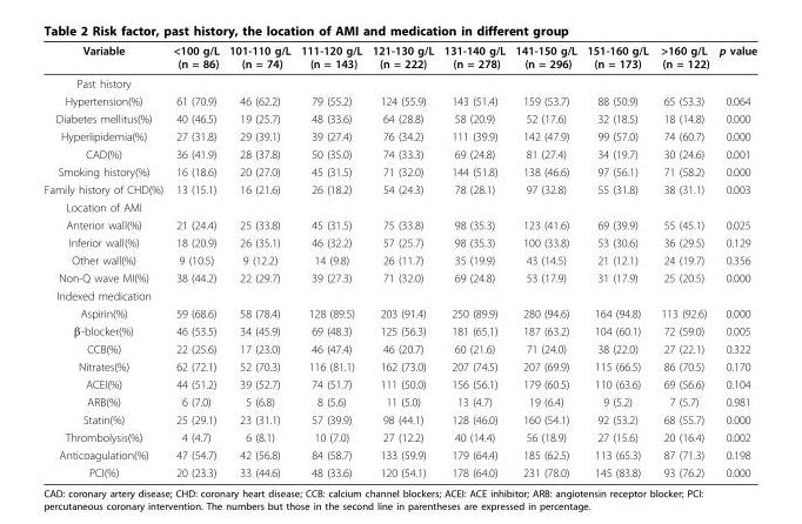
<table><thead><tr><td>Variable</td><td>&lt;100 g/L (n = 86)</td><td>101-110 g/L (n = 74)</td><td>111-120 g/L (n = 143)</td><td>121-130 g/L (n = 222)</td><td>131-140 g/L (n = 278)</td><td>141-150 g/L (n = 296)</td><td>151-160 g/L (n = 173)</td><td>&gt;160 g/L (n = 122)</td><td>p value</td></tr></thead><tbody><tr><td colspan="10">Past history</td></tr><tr><td>Hypertension(%)</td><td>61 (70.9)</td><td>46 (62.2)</td><td>79 (55.2)</td><td>124 (55.9)</td><td>143 (51.4)</td><td>159 (53.7)</td><td>88 (50.9)</td><td>65 (53.3)</td><td>0.064</td></tr><tr><td>Diabetes mellitus(%)</td><td>40 (46.5)</td><td>19 (25.7)</td><td>48 (33.6)</td><td>64 (28.8)</td><td>58 (20.9)</td><td>52 (17.6)</td><td>32 (18.5)</td><td>18 (14.8)</td><td>0.000</td></tr><tr><td>Hyperlipidemia(%)</td><td>27 (31.8)</td><td>29 (39.1)</td><td>39 (27.4)</td><td>76 (34.2)</td><td>111 (39.9)</td><td>142 (47.9)</td><td>99 (57.0)</td><td>74 (60.7)</td><td>0.000</td></tr><tr><td>CAD(%)</td><td>36 (41.9)</td><td>28 (37.8)</td><td>50 (35.0)</td><td>74 (33.3)</td><td>69 (24.8)</td><td>81 (27.4)</td><td>34 (19.7)</td><td>30 (24.6)</td><td>0.001</td></tr><tr><td>Smoking history(%)</td><td>16 (18.6)</td><td>20 (27.0)</td><td>45 (31.5)</td><td>71 (32.0)</td><td>144 (51.8)</td><td>138 (46.6)</td><td>97 (56.1)</td><td>71 (58.2)</td><td>0.000</td></tr><tr><td>Family history of CHD(%)</td><td>13 (15.1)</td><td>16 (21.6)</td><td>26 (18.2)</td><td>54 (24.3)</td><td>78 (28.1)</td><td>97 (32.8)</td><td>55 (31.8)</td><td>38 (31.1)</td><td>0.003</td></tr><tr><td colspan="10">Location of AMI</td></tr><tr><td>Anterior wall(%)</td><td>21 (24.4)</td><td>25 (33.8)</td><td>45 (31.5)</td><td>75 (33.8)</td><td>98 (35.3)</td><td>123 (41.6)</td><td>69 (39.9)</td><td>55 (45.1)</td><td>0.025</td></tr><tr><td>Inferior wall(%)</td><td>18 (20.9)</td><td>26 (35.1)</td><td>46 (32.2)</td><td>57 (25.7)</td><td>98 (35.3)</td><td>100 (33.8)</td><td>53 (30.6)</td><td>36 (29.5)</td><td>0.129</td></tr><tr><td>Other wall(%)</td><td>9 (10.5)</td><td>9 (12.2)</td><td>14 (9.8)</td><td>26 (11.7)</td><td>35 (19.9)</td><td>43 (14.5)</td><td>21 (12.1)</td><td>24 (19.7)</td><td>0.356</td></tr><tr><td>Non-Q wave MI(%)</td><td>38 (44.2)</td><td>22 (29.7)</td><td>39 (27.3)</td><td>71 (32.0)</td><td>69 (24.8)</td><td>53 (17.9)</td><td>31 (17.9)</td><td>25 (20.5)</td><td>0.000</td></tr><tr><td colspan="10">Indexed medication</td></tr><tr><td>Aspirin(%)</td><td>59 (68.6)</td><td>58 (78.4)</td><td>128 (89.5)</td><td>203 (91.4)</td><td>250 (89.9)</td><td>280 (94.6)</td><td>164 (94.8)</td><td>113 (92.6)</td><td>0.000</td></tr><tr><td>β-blocker(%)</td><td>46 (53.5)</td><td>34 (45.9)</td><td>69 (48.3)</td><td>125 (56.3)</td><td>181 (65.1)</td><td>187 (63.2)</td><td>104 (60.1)</td><td>72 (59.0)</td><td>0.005</td></tr><tr><td>CCB(%)</td><td>22 (25.6)</td><td>17 (23.0)</td><td>46 (47.4)</td><td>46 (20.7)</td><td>60 (21.6)</td><td>71 (24.0)</td><td>38 (22.0)</td><td>27 (22.1)</td><td>0.322</td></tr><tr><td>Nitrates(%)</td><td>62 (72.1)</td><td>52 (70.3)</td><td>116 (81.1)</td><td>162 (73.0)</td><td>207 (74.5)</td><td>207 (69.9)</td><td>115 (66.5)</td><td>86 (70.5)</td><td>0.170</td></tr><tr><td>ACEI(%)</td><td>44 (51.2)</td><td>39 (52.7)</td><td>74 (51.7)</td><td>111 (50.0)</td><td>156 (56.1)</td><td>179 (60.5)</td><td>110 (63.6)</td><td>69 (56.6)</td><td>0.104</td></tr><tr><td>ARB(%)</td><td>6 (7.0)</td><td>5 (6.8)</td><td>8 (5.6)</td><td>11 (5.0)</td><td>13 (4.7)</td><td>19 (6.4)</td><td>9 (5.2)</td><td>7 (5.7)</td><td>0.981</td></tr><tr><td>Statin(%)</td><td>25 (29.1)</td><td>23 (31.1)</td><td>57 (39.9)</td><td>98 (44.1)</td><td>128 (46.0)</td><td>160 (54.1)</td><td>92 (53.2)</td><td>68 (55.7)</td><td>0.000</td></tr><tr><td>Thrombolysis(%)</td><td>4 (4.7)</td><td>6 (8.1)</td><td>10 (7.0)</td><td>27 (12.2)</td><td>40 (14.4)</td><td>56 (18.9)</td><td>27 (15.6)</td><td>20 (16.4)</td><td>0.002</td></tr><tr><td>Anticoagulation(%)</td><td>47 (54.7)</td><td>42 (56.8)</td><td>84 (58.7)</td><td>133 (59.9)</td><td>179 (64.4)</td><td>185 (62.5)</td><td>113 (65.3)</td><td>87 (71.3)</td><td>0.198</td></tr><tr><td>PCI(%)</td><td>20 (23.3)</td><td>33 (44.6)</td><td>48 (33.6)</td><td>120 (54.1)</td><td>178 (64.0)</td><td>231 (78.0)</td><td>145 (83.8)</td><td>93 (76.2)</td><td>0.000</td></tr></tbody></table>